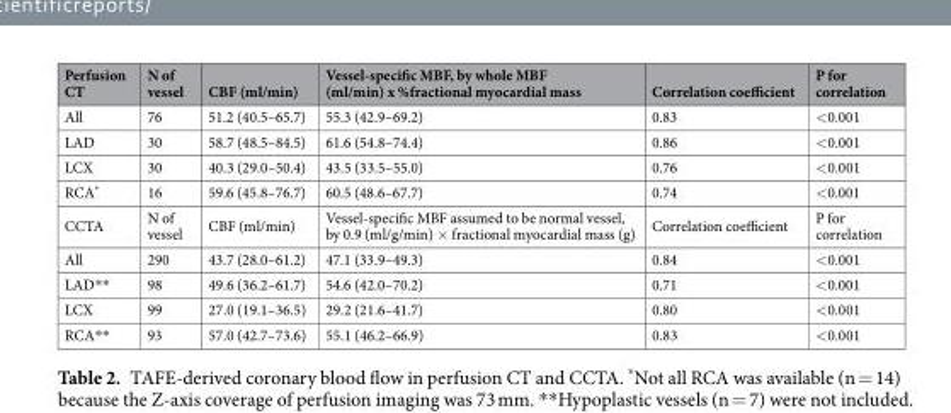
<table><thead><tr><td>Perfusion CT</td><td>N of vessel</td><td>CBF (ml/min)</td><td>Vessel-specific MBF, by whole MBF (ml/min) x %fractional myocardial mass</td><td>Correlation coefficient</td><td>P for correlation</td></tr></thead><tbody><tr><td>All</td><td>76</td><td>51.2 (40.5–65.7)</td><td>55.3 (42.9–69.2)</td><td>0.83</td><td>&lt;0.001</td></tr><tr><td>LAD</td><td>30</td><td>58.7 (48.5–84.5)</td><td>61.6 (54.8–74.4)</td><td>0.86</td><td>&lt;0.001</td></tr><tr><td>LCX</td><td>30</td><td>40.3 (29.0–50.4)</td><td>43.5 (33.5–55.0)</td><td>0.76</td><td>&lt;0.001</td></tr><tr><td>RCA*</td><td>16</td><td>59.6 (45.8–76.7)</td><td>60.5 (48.6–67.7)</td><td>0.74</td><td>&lt;0.001</td></tr><tr><td>CCTA</td><td>N of vessel</td><td>CBF (ml/min)</td><td>Vessel-specific MBF assumed to be normal vessel, by 0.9 (ml/g/min) × fractional myocardial mass (g)</td><td>Correlation coefficient</td><td>P for correlation</td></tr><tr><td>All</td><td>290</td><td>43.7 (28.0–61.2)</td><td>47.1 (33.9–49.3)</td><td>0.84</td><td>&lt;0.001</td></tr><tr><td>LAD**</td><td>98</td><td>49.6 (36.2–61.7)</td><td>54.6 (42.0–70.2)</td><td>0.71</td><td>&lt;0.001</td></tr><tr><td>LCX</td><td>99</td><td>27.0 (19.1–36.5)</td><td>29.2 (21.6–41.7)</td><td>0.80</td><td>&lt;0.001</td></tr><tr><td>RCA**</td><td>93</td><td>57.0 (42.7–73.6)</td><td>55.1 (46.2–66.9)</td><td>0.83</td><td>&lt;0.001</td></tr></tbody></table>